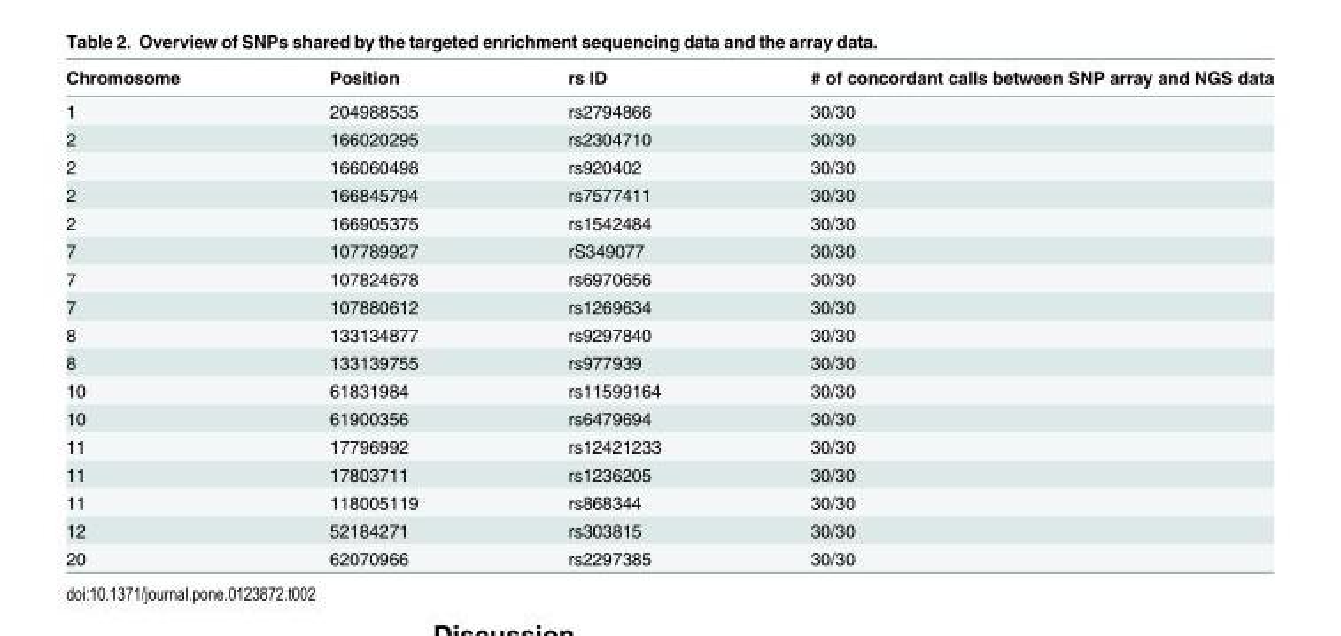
<table><thead><tr><td>Chromosome</td><td>Position</td><td>rs ID</td><td># of concordant calls between SNP array and NGS data</td></tr></thead><tbody><tr><td>1</td><td>204988535</td><td>rs2794866</td><td>30/30</td></tr><tr><td>2</td><td>166020295</td><td>rs2304710</td><td>30/30</td></tr><tr><td>2</td><td>166060498</td><td>rs920402</td><td>30/30</td></tr><tr><td>2</td><td>166845794</td><td>rs7577411</td><td>30/30</td></tr><tr><td>2</td><td>166905375</td><td>rs1542484</td><td>30/30</td></tr><tr><td>7</td><td>107789927</td><td>rS349077</td><td>30/30</td></tr><tr><td>7</td><td>107824678</td><td>rs6970656</td><td>30/30</td></tr><tr><td>7</td><td>107880612</td><td>rs1269634</td><td>30/30</td></tr><tr><td>8</td><td>133134877</td><td>rs9297840</td><td>30/30</td></tr><tr><td>8</td><td>133139755</td><td>rs977939</td><td>30/30</td></tr><tr><td>10</td><td>61831984</td><td>rs11599164</td><td>30/30</td></tr><tr><td>10</td><td>61900356</td><td>rs6479694</td><td>30/30</td></tr><tr><td>11</td><td>17796992</td><td>rs12421233</td><td>30/30</td></tr><tr><td>11</td><td>17803711</td><td>rs1236205</td><td>30/30</td></tr><tr><td>11</td><td>118005119</td><td>rs868344</td><td>30/30</td></tr><tr><td>12</td><td>52184271</td><td>rs303815</td><td>30/30</td></tr><tr><td>20</td><td>62070966</td><td>rs2297385</td><td>30/30</td></tr></tbody></table>